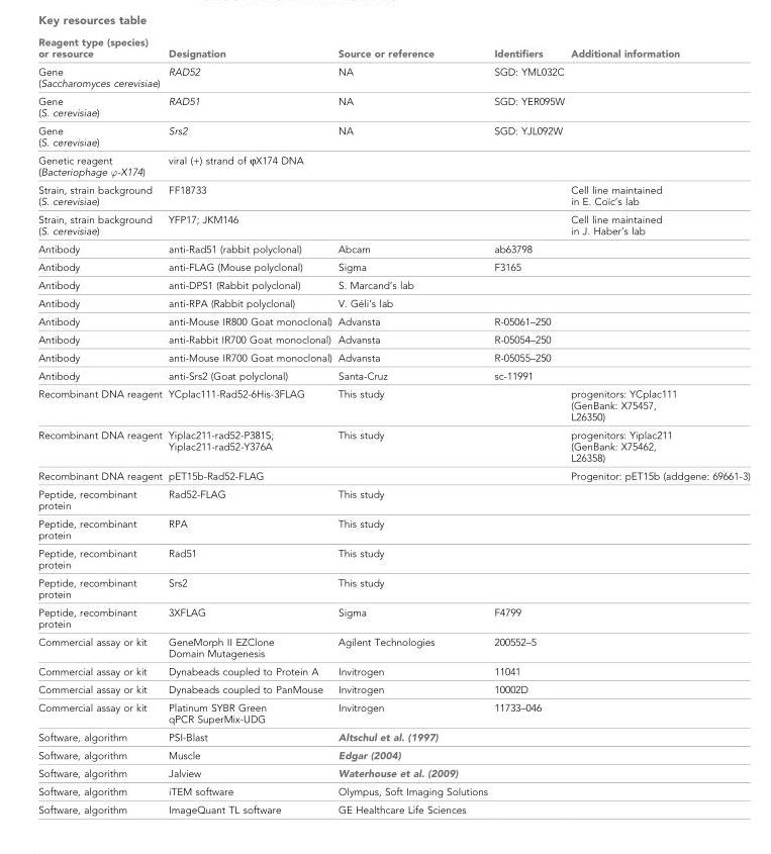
<table><thead><tr><td>Reagent type (species) or resource</td><td>Designation</td><td>Source or reference</td><td>Identifiers</td><td>Additional information</td></tr></thead><tbody><tr><td>Gene (Saccharomyces cerevisiae)</td><td>RAD52</td><td>NA</td><td>SGD: YML032C</td><td></td></tr><tr><td>Gene (S. cerevisiae)</td><td>RAD51</td><td>NA</td><td>SGD: YER095W</td><td></td></tr><tr><td>Gene (S. cerevisiae)</td><td>Srs2</td><td>NA</td><td>SGD: YJL092W</td><td></td></tr><tr><td>Genetic reagent (Bacteriophage ’-X174)</td><td>viral (+) strand of φX174 DNA</td><td></td><td></td><td></td></tr><tr><td>Strain, strain background (S. cerevisiae)</td><td>FF18733</td><td></td><td></td><td>Cell line maintained in E. Coı¨c’s lab</td></tr><tr><td>Strain, strain background (S. cerevisiae)</td><td>YFP17; JKM146</td><td></td><td></td><td>Cell line maintained in J. Haber’s lab</td></tr><tr><td>Antibody</td><td>anti-Rad51 (rabbit polyclonal)</td><td>Abcam</td><td>ab63798</td><td></td></tr><tr><td>Antibody</td><td>anti-FLAG (Mouse polyclonal)</td><td>Sigma</td><td>F3165</td><td></td></tr><tr><td>Antibody</td><td>anti-DPS1 (Rabbit polyclonal)</td><td>S. Marcand’s lab</td><td></td><td></td></tr><tr><td>Antibody</td><td>anti-RPA (Rabbit polyclonal)</td><td>V. Ge´ li’s lab</td><td></td><td></td></tr><tr><td>Antibody</td><td>anti-Mouse IR800 Goat monoclonal)</td><td>Advansta</td><td>R-05061–250</td><td></td></tr><tr><td>Antibody</td><td>anti-Rabbit IR700 Goat monoclonal)</td><td>Advansta</td><td>R-05054–250</td><td></td></tr><tr><td>Antibody</td><td>anti-Mouse IR700 Goat monoclonal)</td><td>Advansta</td><td>R-05055–250</td><td></td></tr><tr><td>Antibody</td><td>anti-Srs2 (Goat polyclonal)</td><td>Santa-Cruz</td><td>sc-11991</td><td></td></tr><tr><td>Recombinant DNA reagent</td><td>YCplac111-Rad52-6His-3FLAG</td><td>This study</td><td></td><td>progenitors: YCplac111 (GenBank: X75457, L26350)</td></tr><tr><td>Recombinant DNA reagent</td><td>Yiplac211-rad52-P381S; Yiplac211-rad52-Y376A</td><td>This study</td><td></td><td>progenitors: Yiplac211 (GenBank: X75462, L26358)</td></tr><tr><td>Recombinant DNA reagent</td><td>pET15b-Rad52-FLAG</td><td></td><td></td><td>Progenitor: pET15b (addgene: 69661-3)</td></tr><tr><td>Peptide, recombinant protein</td><td>Rad52-FLAG</td><td>This study</td><td></td><td></td></tr><tr><td>Peptide, recombinant protein</td><td>RPA</td><td>This study</td><td></td><td></td></tr><tr><td>Peptide, recombinant protein</td><td>Rad51</td><td>This study</td><td></td><td></td></tr><tr><td>Peptide, recombinant protein</td><td>Srs2</td><td>This study</td><td></td><td></td></tr><tr><td>Peptide, recombinant protein</td><td>3XFLAG</td><td>Sigma</td><td>F4799</td><td></td></tr><tr><td>Commercial assay or kit</td><td>GeneMorph II EZClone Domain Mutagenesis</td><td>Agilent Technologies</td><td>200552–5</td><td></td></tr><tr><td>Commercial assay or kit</td><td>Dynabeads coupled to Protein A</td><td>Invitrogen</td><td>11041</td><td></td></tr><tr><td>Commercial assay or kit</td><td>Dynabeads coupled to PanMouse</td><td>Invitrogen</td><td>10002D</td><td></td></tr><tr><td>Commercial assay or kit</td><td>Platinum SYBR Green qPCR SuperMix-UDG</td><td>Invitrogen</td><td>11733–046</td><td></td></tr><tr><td>Software, algorithm</td><td>PSI-Blast</td><td>Altschul et al. (1997)</td><td></td><td></td></tr><tr><td>Software, algorithm</td><td>Muscle</td><td>Edgar (2004)</td><td></td><td></td></tr><tr><td>Software, algorithm</td><td>Jalview</td><td>Waterhouse et al. (2009)</td><td></td><td></td></tr><tr><td>Software, algorithm</td><td>iTEM software</td><td>Olympus, Soft Imaging Solutions</td><td></td><td></td></tr><tr><td>Software, algorithm</td><td>ImageQuant TL software</td><td>GE Healthcare Life Sciences</td><td></td><td></td></tr></tbody></table>